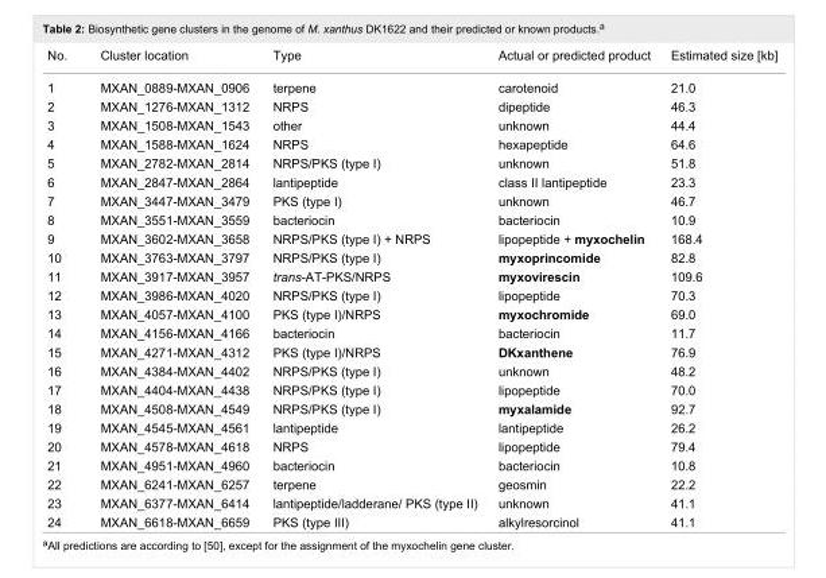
<table><tbody><tr><td>No.</td><td>Cluster location</td><td>Type</td><td>Actual or predicted product</td><td>Estimated size [kb]</td></tr><tr><td>1</td><td>MXAN_0889-MXAN_0906</td><td>terpene</td><td>carotenoid</td><td>21.0</td></tr><tr><td>2</td><td>MXAN_1276-MXAN_1312</td><td>NRPS</td><td>dipeptide</td><td>46.3</td></tr><tr><td>3</td><td>MXAN_1508-MXAN_1543</td><td>other</td><td>unknown</td><td>44.4</td></tr><tr><td>4</td><td>MXAN_1588-MXAN_1624</td><td>NRPS</td><td>hexapeptide</td><td>64.6</td></tr><tr><td>5</td><td>MXAN_2782-MXAN_2814</td><td>NRPS/PKS (type I)</td><td>unknown</td><td>51.8</td></tr><tr><td>6</td><td>MXAN_2847-MXAN_2864</td><td>lantipeptide</td><td>class II lantipeptide</td><td>23.3</td></tr><tr><td>7</td><td>MXAN_3447-MXAN_3479</td><td>PKS (type I)</td><td>unknown</td><td>46.7</td></tr><tr><td>8</td><td>MXAN_3551-MXAN_3559</td><td>bacteriocin</td><td>bacteriocin</td><td>10.9</td></tr><tr><td>9</td><td>MXAN_3602-MXAN_3658</td><td>NRPS/PKS (type I) + NRPS</td><td>lipopeptide + myxochelin</td><td>168.4</td></tr><tr><td>10</td><td>MXAN_3763-MXAN_3797</td><td>NRPS/PKS (type I)</td><td>myxoprincomide</td><td>82.8</td></tr><tr><td>11</td><td>MXAN_3917-MXAN_3957</td><td>trans-AT-PKS/NRPS</td><td>myxovirescin</td><td>109.6</td></tr><tr><td>12</td><td>MXAN_3986-MXAN_4020</td><td>NRPS/PKS (type I)</td><td>lipopeptide</td><td>70.3</td></tr><tr><td>13</td><td>MXAN_4057-MXAN_4100</td><td>PKS (type I)/NRPS</td><td>myxochromide</td><td>69.0</td></tr><tr><td>14</td><td>MXAN_4156-MXAN_4166</td><td>bacteriocin</td><td>bacteriocin</td><td>11.7</td></tr><tr><td>15</td><td>MXAN_4271-MXAN_4312</td><td>PKS (type I)/NRPS</td><td>DKxanthene</td><td>76.9</td></tr><tr><td>16</td><td>MXAN_4384-MXAN_4402</td><td>NRPS/PKS (type I)</td><td>unknown</td><td>48.2</td></tr><tr><td>17</td><td>MXAN_4404-MXAN_4438</td><td>NRPS/PKS (type I)</td><td>lipopeptide</td><td>70.0</td></tr><tr><td>18</td><td>MXAN_4508-MXAN_4549</td><td>NRPS/PKS (type I)</td><td>myxalamide</td><td>92.7</td></tr><tr><td>19</td><td>MXAN_4545-MXAN_4561</td><td>lantipeptide</td><td>lantipeptide</td><td>26.2</td></tr><tr><td>20</td><td>MXAN_4578-MXAN_4618</td><td>NRPS</td><td>lipopeptide</td><td>79.4</td></tr><tr><td>21</td><td>MXAN_4951-MXAN_4960</td><td>bacteriocin</td><td>bacteriocin</td><td>10.8</td></tr><tr><td>22</td><td>MXAN_6241-MXAN_6257</td><td>terpene</td><td>geosmin</td><td>22.2</td></tr><tr><td>23</td><td>MXAN_6377-MXAN_6414</td><td>lantipeptide/ladderane/ PKS (type II)</td><td>unknown</td><td>41.1</td></tr><tr><td>24</td><td>MXAN_6618-MXAN_6659</td><td>PKS (type III)</td><td>alkylresorcinol</td><td>41.1</td></tr></tbody></table>